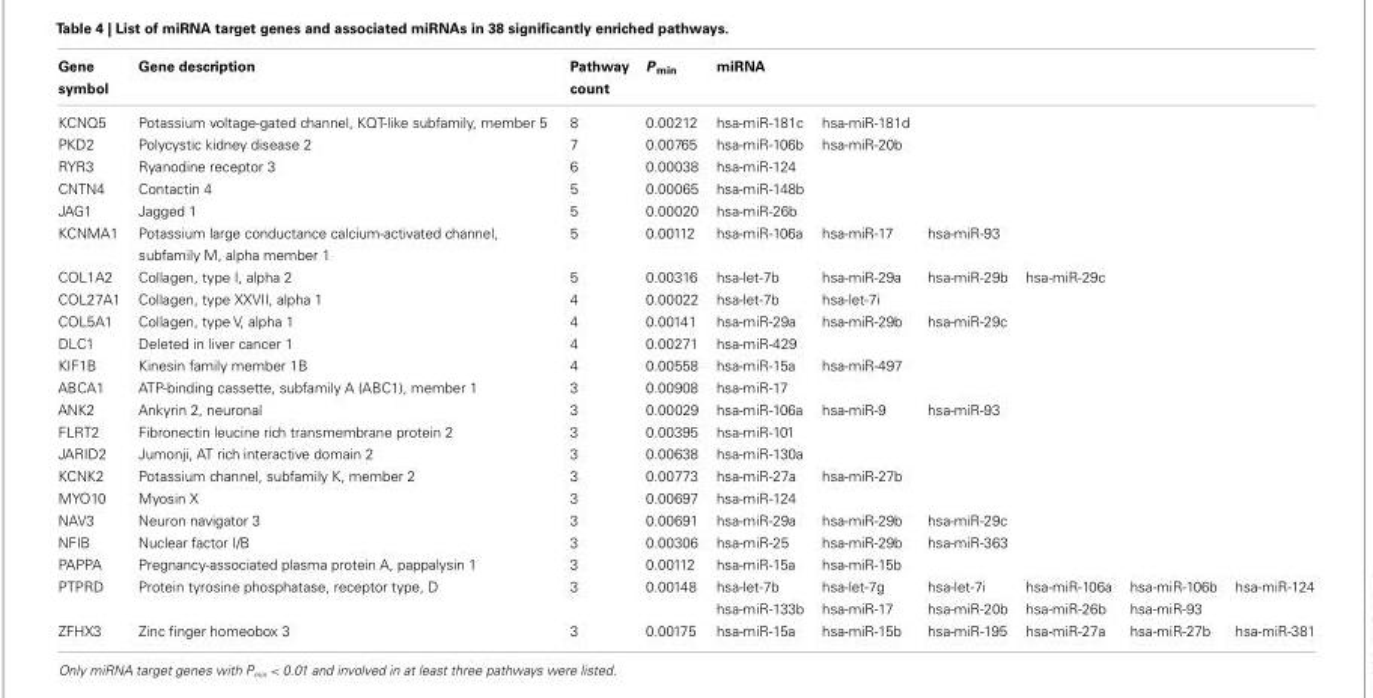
<table><thead><tr><td>Gene symbol</td><td>Gene description</td><td>Pathway count</td><td>P <sub>min</sub></td><td>miRNA</td><td></td><td></td><td></td><td></td><td></td></tr></thead><tbody><tr><td>KCNQ5</td><td>Potassium voltage-gated channel, KQT-like subfamily, member 5</td><td>8</td><td>0.00212</td><td>hsa-miR-181c</td><td>hsa-miR-181d</td><td></td><td></td><td></td><td></td></tr><tr><td>PKD2</td><td>Polycystic kidney disease 2</td><td>7</td><td>0.00765</td><td>hsa-miR-106b</td><td>hsa-miR-20b</td><td></td><td></td><td></td><td></td></tr><tr><td>RYR3</td><td>Ryanodine receptor 3</td><td>6</td><td>0.00038</td><td>hsa-miR-124</td><td></td><td></td><td></td><td></td><td></td></tr><tr><td>CNTN4</td><td>Contactin 4</td><td>5</td><td>0.00065</td><td>hsa-miR-148b</td><td></td><td></td><td></td><td></td><td></td></tr><tr><td>JAG1</td><td>Jagged 1</td><td>5</td><td>0.00020</td><td>hsa-miR-26b</td><td></td><td></td><td></td><td></td><td></td></tr><tr><td>KCNMA1</td><td>Potassium large conductance calcium-activated channel, subfamily M, alpha member 1</td><td>5</td><td>0.00112</td><td>hsa-miR-106a</td><td>hsa-miR-17</td><td>hsa-miR-93</td><td></td><td></td><td></td></tr><tr><td>COL1A2</td><td>Collagen, type I, alpha 2</td><td>5</td><td>0.00316</td><td>hsa-let-7b</td><td>hsa-miR-29a</td><td>hsa-miR-29b</td><td>hsa-miR-29c</td><td></td><td></td></tr><tr><td>COL27A1</td><td>Collagen, type XXVII, alpha 1</td><td>4</td><td>0.00022</td><td>hsa-let-7b</td><td>hsa-let-7i</td><td></td><td></td><td></td><td></td></tr><tr><td>COL5A1</td><td>Collagen, type V, alpha 1</td><td>4</td><td>0.00141</td><td>hsa-miR-29a</td><td>hsa-miR-29b</td><td>hsa-miR-29c</td><td></td><td></td><td></td></tr><tr><td>DLC1</td><td>Deleted in liver cancer 1</td><td>4</td><td>0.00271</td><td>hsa-miR-429</td><td></td><td></td><td></td><td></td><td></td></tr><tr><td>KIF1B</td><td>Kinesin family member 1B</td><td>4</td><td>0.00558</td><td>hsa-miR-15a</td><td>hsa-miR-497</td><td></td><td></td><td></td><td></td></tr><tr><td>ABCA1</td><td>ATP-binding cassette, subfamily A (ABC1), member 1</td><td>3</td><td>0.00908</td><td>hsa-miR-17</td><td></td><td></td><td></td><td></td><td></td></tr><tr><td>ANK2</td><td>Ankyrin 2, neuronal</td><td>3</td><td>0.00029</td><td>hsa-miR-106a</td><td>hsa-miR-9</td><td>hsa-miR-93</td><td></td><td></td><td></td></tr><tr><td>FLRT2</td><td>Fibronectin leucine rich transmembrane protein 2</td><td>3</td><td>0.00395</td><td>hsa-miR-101</td><td></td><td></td><td></td><td></td><td></td></tr><tr><td>JARID2</td><td>Jumonji, AT rich interactive domain 2</td><td>3</td><td>0.00638</td><td>hsa-miR-130a</td><td></td><td></td><td></td><td></td><td></td></tr><tr><td>KCNK2</td><td>Potassium channel, subfamily K, member 2</td><td>3</td><td>0.00773</td><td>hsa-miR-27a</td><td>hsa-miR-27b</td><td></td><td></td><td></td><td></td></tr><tr><td>MYO10</td><td>Myosin X</td><td>3</td><td>0.00697</td><td>hsa-miR-124</td><td></td><td></td><td></td><td></td><td></td></tr><tr><td>NAV3</td><td>Neuron navigator 3</td><td>3</td><td>0.00691</td><td>hsa-miR-29a</td><td>hsa-miR-29b</td><td>hsa-miR-29c</td><td></td><td></td><td></td></tr><tr><td>NFIB</td><td>Nuclear factor I/B</td><td>3</td><td>0.00306</td><td>hsa-miR-25</td><td>hsa-miR-29b</td><td>hsa-miR-363</td><td></td><td></td><td></td></tr><tr><td>PAPPA</td><td>Pregnancy-associated plasma protein A, pappalysin 1</td><td>3</td><td>0.00112</td><td>hsa-miR-15a</td><td>hsa-miR-15b</td><td></td><td></td><td></td><td></td></tr><tr><td rowspan="2">PTPRD</td><td>Protein tyrosine phosphatase, receptor type, D</td><td>3</td><td>0.00148</td><td>hsa-let-7b</td><td>hsa-let-7g</td><td>hsa-let-7i</td><td>hsa-miR-106a</td><td>hsa-miR-106b</td><td>hsa-miR-124</td></tr><tr><td></td><td></td><td></td><td>hsa-miR-133b</td><td>hsa-miR-17</td><td>hsa-miR-20b</td><td>hsa-miR-26b</td><td>hsa-miR-93</td><td></td></tr><tr><td>ZFHX3</td><td>Zinc finger homeobox 3</td><td>3</td><td>0.00175</td><td>hsa-miR-15a</td><td>hsa-miR-15b</td><td>hsa-miR-195</td><td>hsa-miR-27a</td><td>hsa-miR-27b</td><td>hsa-miR-381</td></tr></tbody></table>